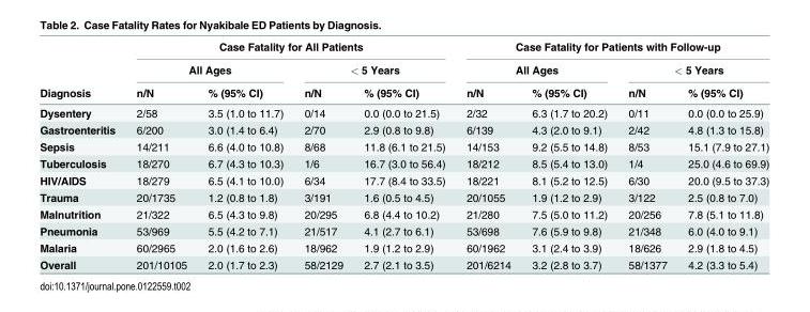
<table><thead><tr><td rowspan="3">Diagnosis</td><td colspan="4">Case Fatality for All Patients</td><td colspan="4">Case Fatality for Patients with Follow-up</td></tr><tr><td colspan="2">All Ages</td><td colspan="2">&lt; 5 Years</td><td colspan="2">All Ages</td><td colspan="2">&lt; 5 Years</td></tr><tr><td>n/N</td><td>% (95% CI)</td><td>n/N</td><td>% (95% CI)</td><td>n/N</td><td>% (95% CI)</td><td>n/N</td><td>% (95% CI)</td></tr></thead><tbody><tr><td>Dysentery</td><td>2/58</td><td>3.5 (1.0 to 11.7)</td><td>0/14</td><td>0.0 (0.0 to 21.5)</td><td>2/32</td><td>6.3 (1.7 to 20.2)</td><td>0/11</td><td>0.0 (0.0 to 25.9)</td></tr><tr><td>Gastroenteritis</td><td>6/200</td><td>3.0 (1.4 to 6.4)</td><td>2/70</td><td>2.9 (0.8 to 9.8)</td><td>6/139</td><td>4.3 (2.0 to 9.1)</td><td>2/42</td><td>4.8 (1.3 to 15.8)</td></tr><tr><td>Sepsis</td><td>14/211</td><td>6.6 (4.0 to 10.8)</td><td>8/68</td><td>11.8 (6.1 to 21.5)</td><td>14/153</td><td>9.2 (5.5 to 14.8)</td><td>8/53</td><td>15.1 (7.9 to 27.1)</td></tr><tr><td>Tuberculosis</td><td>18/270</td><td>6.7 (4.3 to 10.3)</td><td>1/6</td><td>16.7 (3.0 to 56.4)</td><td>18/212</td><td>8.5 (5.4 to 13.0)</td><td>1/4</td><td>25.0 (4.6 to 69.9)</td></tr><tr><td>HIV/AIDS</td><td>18/279</td><td>6.5 (4.1 to 10.0)</td><td>6/34</td><td>17.7 (8.4 to 33.5)</td><td>18/221</td><td>8.1 (5.2 to 12.5)</td><td>6/30</td><td>20.0 (9.5 to 37.3)</td></tr><tr><td>Trauma</td><td>20/1735</td><td>1.2 (0.8 to 1.8)</td><td>3/191</td><td>1.6 (0.5 to 4.5)</td><td>20/1055</td><td>1.9 (1.2 to 2.9)</td><td>3/122</td><td>2.5 (0.8 to 7.0)</td></tr><tr><td>Malnutrition</td><td>21/322</td><td>6.5 (4.3 to 9.8)</td><td>20/295</td><td>6.8 (4.4 to 10.2)</td><td>21/280</td><td>7.5 (5.0 to 11.2)</td><td>20/256</td><td>7.8 (5.1 to 11.8)</td></tr><tr><td>Pneumonia</td><td>53/969</td><td>5.5 (4.2 to 7.1)</td><td>21/517</td><td>4.1 (2.7 to 6.1)</td><td>53/698</td><td>7.6 (5.9 to 9.8)</td><td>21/348</td><td>6.0 (4.0 to 9.1)</td></tr><tr><td>Malaria</td><td>60/2965</td><td>2.0 (1.6 to 2.6)</td><td>18/962</td><td>1.9 (1.2 to 2.9)</td><td>60/1962</td><td>3.1 (2.4 to 3.9)</td><td>18/626</td><td>2.9 (1.8 to 4.5)</td></tr><tr><td>Overall</td><td>201/10105</td><td>2.0 (1.7 to 2.3)</td><td>58/2129</td><td>2.7 (2.1 to 3.5)</td><td>201/6214</td><td>3.2 (2.8 to 3.7)</td><td>58/1377</td><td>4.2 (3.3 to 5.4)</td></tr></tbody></table>